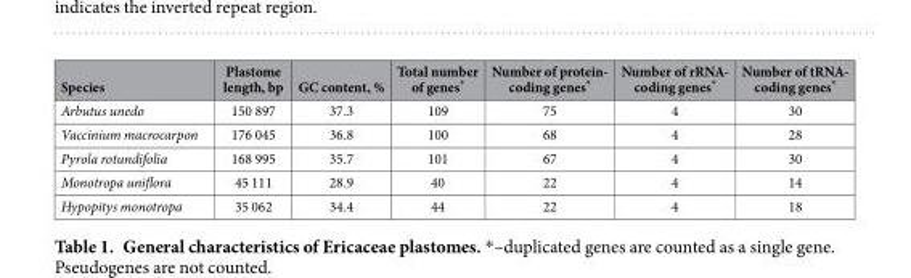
<table><thead><tr><td>Species</td><td>Plastome length, bp</td><td>GC content, %</td><td>Total number of genes*</td><td>Number of protein- coding genes*</td><td>Number of rRNA- coding genes*</td><td>Number of tRNA- coding genes*</td></tr></thead><tbody><tr><td>Arbutus unedo</td><td>150 897</td><td>37.3</td><td>109</td><td>75</td><td>4</td><td>30</td></tr><tr><td>Vaccinium macrocarpon</td><td>176 045</td><td>36.8</td><td>100</td><td>68</td><td>4</td><td>28</td></tr><tr><td>Pyrola rotundifolia</td><td>168 995</td><td>35.7</td><td>101</td><td>67</td><td>4</td><td>30</td></tr><tr><td>Monotropa uniflora</td><td>45 111</td><td>28.9</td><td>40</td><td>22</td><td>4</td><td>14</td></tr><tr><td>Hypopitys monotropa</td><td>35 062</td><td>34.4</td><td>44</td><td>22</td><td>4</td><td>18</td></tr></tbody></table>